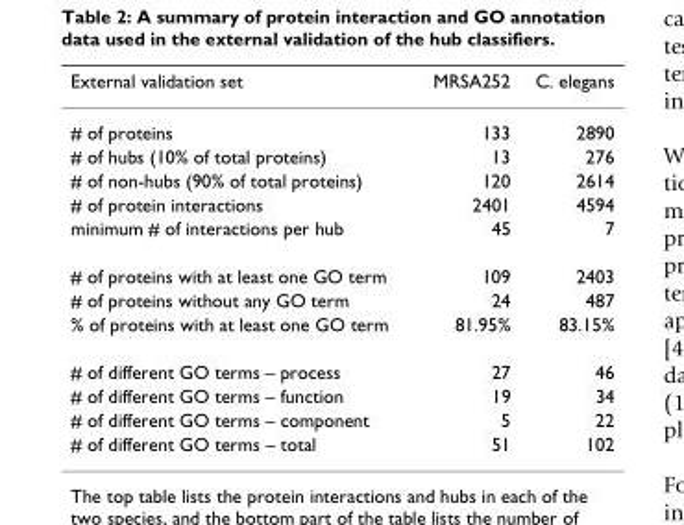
<table><thead><tr><td>External validation set</td><td>MRSA252</td><td>C. elegans</td></tr></thead><tbody><tr><td># of proteins</td><td>133</td><td>2890</td></tr><tr><td># of hubs (10% of total proteins)</td><td>13</td><td>276</td></tr><tr><td># of non-hubs (90% of total proteins)</td><td>120</td><td>2614</td></tr><tr><td># of protein interactions</td><td>2401</td><td>4594</td></tr><tr><td>minimum # of interactions per hub</td><td>45</td><td>7</td></tr><tr><td># of proteins with at least one GO term</td><td>109</td><td>2403</td></tr><tr><td># of proteins without any GO term</td><td>24</td><td>487</td></tr><tr><td>% of proteins with at least one GO term</td><td>81.95%</td><td>83.15%</td></tr><tr><td># of different GO terms – process</td><td>27</td><td>46</td></tr><tr><td># of different GO terms – function</td><td>19</td><td>34</td></tr><tr><td># of different GO terms – component</td><td>5</td><td>22</td></tr><tr><td># of different GO terms – total</td><td>51</td><td>102</td></tr></tbody></table>